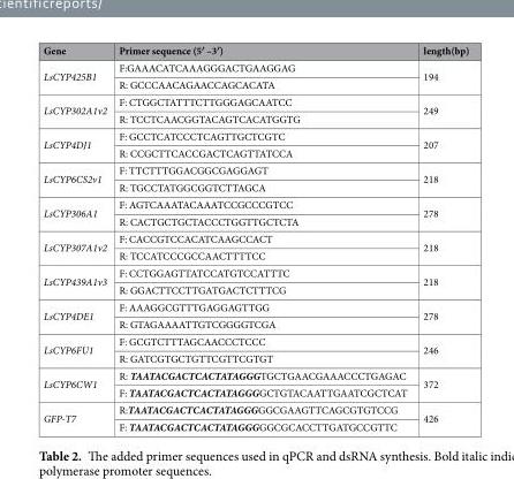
<table><thead><tr><td>Gene</td><td>Primer sequence (5′ –3′)</td><td>length(bp)</td></tr></thead><tbody><tr><td rowspan="2">LsCYP425B1</td><td>F:GAAACATCAAAGGGACTGAAGGAG</td><td rowspan="2">194</td></tr><tr><td>R: GCCCAACAGAACCAGCACATA</td></tr><tr><td rowspan="2">LsCYP302A1v2</td><td>F: CTGGCTATTTCTTGGGAGCAATCC</td><td rowspan="2">249</td></tr><tr><td>R: TCCTCAACGGTACAGTCACATGGTG</td></tr><tr><td rowspan="2">LsCYP4DJ1</td><td>F: GCCTCATCCCTCAGTTGCTCGTC</td><td rowspan="2">207</td></tr><tr><td>R: CCGCTTCACCGACTCAGTTATCCA</td></tr><tr><td rowspan="2">LsCYP6CS2v1</td><td>F: TTCTTTGGACGGCGAGGAGT</td><td rowspan="2">218</td></tr><tr><td>R: TGCCTATGGCGGTCTTAGCA</td></tr><tr><td rowspan="2">LsCYP306A1</td><td>F: AGTCAAATACAAATCCGCCCGTCC</td><td rowspan="2">278</td></tr><tr><td>R: CACTGCTGCTACCCTGGTTGCTCTA</td></tr><tr><td rowspan="2">LsCYP307A1v2</td><td>F: CACCGTCCACATCAAGCCACT</td><td rowspan="2">218</td></tr><tr><td>R: TCCATCCCGCCAACTTTTCC</td></tr><tr><td rowspan="2">LsCYP439A1v3</td><td>F: CCTGGAGTTATCCATGTCCATTTC</td><td rowspan="2">218</td></tr><tr><td>R: GGACTTCCTTGATGACTCTTTCG</td></tr><tr><td rowspan="2">LsCYP4DE1</td><td>F: AAAGGCGTTTGAGGAGTTGG</td><td rowspan="2">278</td></tr><tr><td>R: GTAGAAAATTGTCGGGGTCGA</td></tr><tr><td rowspan="2">LsCYP6FU1</td><td>F: GCGTCTTTAGCAACCCTCCC</td><td rowspan="2">246</td></tr><tr><td>R: GATCGTGCTGTTCGTTCGTGT</td></tr><tr><td rowspan="2">LsCYP6CW1</td><td>R: TAATACGACTCACTATAGGGTGCTGAACGAAACCCTGAGAC</td><td rowspan="2">372</td></tr><tr><td>F: TAATACGACTCACTATAGGGGCTGTACAATTGAATCGCTCAT</td></tr><tr><td rowspan="2">GFP-T7</td><td>R:TAATACGACTCACTATAGGGGGCGAAGTTCAGCGTGTCCG</td><td rowspan="2">426</td></tr><tr><td>F: TAATACGACTCACTATAGGGGGCGCACCTTGATGCCGTTC</td></tr></tbody></table>